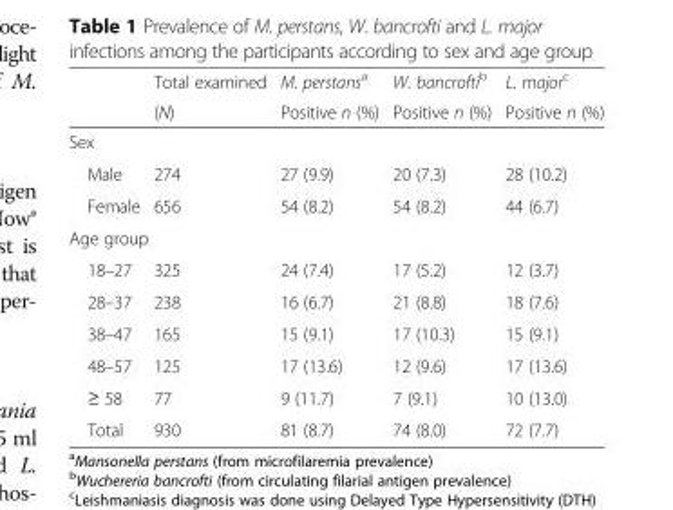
<table><thead><tr><td rowspan="2"></td><td rowspan="2">Total examined (N)</td><td rowspan="2">M. perstans<sup>a</sup> Positive n (%)</td><td rowspan="2">W. bancrofti<sup>b</sup> Positive n (%)</td><td rowspan="2">L. major<sup>c</sup> Positive n (%)</td></tr><tr></tr></thead><tbody><tr><td colspan="5">Sex</td></tr><tr><td>Male</td><td>274</td><td>27 (9.9)</td><td>20 (7.3)</td><td>28 (10.2)</td></tr><tr><td>Female</td><td>656</td><td>54 (8.2)</td><td>54 (8.2)</td><td>44 (6.7)</td></tr><tr><td colspan="5">Age group</td></tr><tr><td>18–27</td><td>325</td><td>24 (7.4)</td><td>17 (5.2)</td><td>12 (3.7)</td></tr><tr><td>28–37</td><td>238</td><td>16 (6.7)</td><td>21 (8.8)</td><td>18 (7.6)</td></tr><tr><td>38–47</td><td>165</td><td>15 (9.1)</td><td>17 (10.3)</td><td>15 (9.1)</td></tr><tr><td>48–57</td><td>125</td><td>17 (13.6)</td><td>12 (9.6)</td><td>17 (13.6)</td></tr><tr><td>≥ 58</td><td>77</td><td>9 (11.7)</td><td>7 (9.1)</td><td>10 (13.0)</td></tr><tr><td>Total</td><td>930</td><td>81 (8.7)</td><td>74 (8.0)</td><td>72 (7.7)</td></tr></tbody></table>